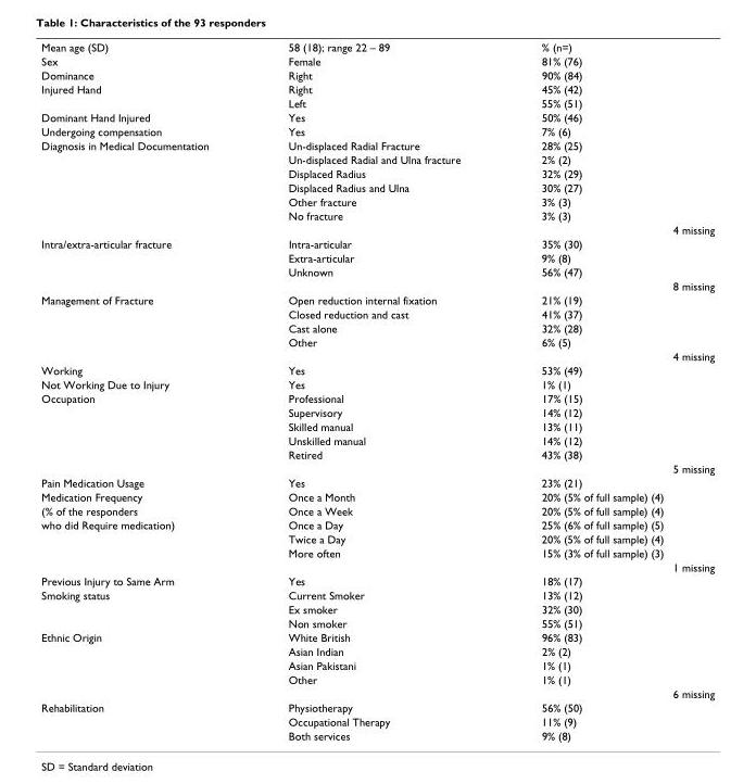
<table><tbody><tr><td>Mean age (SD)</td><td>58 (18); range 22 – 89</td><td>% (n=)</td></tr><tr><td>Sex</td><td>Female</td><td>81% (76)</td></tr><tr><td>Dominance</td><td>Right</td><td>90% (84)</td></tr><tr><td rowspan="2">Injured Hand</td><td>Right</td><td>45% (42)</td></tr><tr><td>Left</td><td>55% (51)</td></tr><tr><td>Dominant Hand Injured</td><td>Yes</td><td>50% (46)</td></tr><tr><td>Undergoing compensation</td><td>Yes</td><td>7% (6)</td></tr><tr><td rowspan="7">Diagnosis in Medical Documentation</td><td>Un-displaced Radial Fracture</td><td>28% (25)</td></tr><tr><td>Un-displaced Radial and Ulna fracture</td><td>2% (2)</td></tr><tr><td>Displaced Radius</td><td>32% (29)</td></tr><tr><td>Displaced Radius and Ulna</td><td>30% (27)</td></tr><tr><td>Other fracture</td><td>3% (3)</td></tr><tr><td>No fracture</td><td>3% (3)</td></tr><tr><td></td><td>4 missing</td></tr><tr><td rowspan="4">Intra/extra-articular fracture</td><td>Intra-articular</td><td>35% (30)</td></tr><tr><td>Extra-articular</td><td>9% (8)</td></tr><tr><td>Unknown</td><td>56% (47)</td></tr><tr><td></td><td>8 missing</td></tr><tr><td rowspan="5">Management of Fracture</td><td>Open reduction internal fixation</td><td>21% (19)</td></tr><tr><td>Closed reduction and cast</td><td>41% (37)</td></tr><tr><td>Cast alone</td><td>32% (28)</td></tr><tr><td>Other</td><td>6% (5)</td></tr><tr><td></td><td>4 missing</td></tr><tr><td>Working</td><td>Yes</td><td>53% (49)</td></tr><tr><td>Not Working Due to Injury</td><td>Yes</td><td>1% (1)</td></tr><tr><td rowspan="6">Occupation</td><td>Professional</td><td>17% (15)</td></tr><tr><td>Supervisory</td><td>14% (12)</td></tr><tr><td>Skilled manual</td><td>13% (11)</td></tr><tr><td>Unskilled manual</td><td>14% (12)</td></tr><tr><td>Retired</td><td>43% (38)</td></tr><tr><td></td><td>5 missing</td></tr><tr><td>Pain Medication Usage</td><td>Yes</td><td>23% (21)</td></tr><tr><td>Medication Frequency</td><td>Once a Month</td><td>20% (5% of full sample) (4)</td></tr><tr><td>(% of the responders</td><td>Once a Week</td><td>20% (5% of full sample) (4)</td></tr><tr><td rowspan="4">who did Require medication)</td><td>Once a Day</td><td>25% (6% of full sample) (5)</td></tr><tr><td>Twice a Day</td><td>20% (5% of full sample) (4)</td></tr><tr><td>More often</td><td>15% (3% of full sample) (3)</td></tr><tr><td></td><td>1 missing</td></tr><tr><td>Previous Injury to Same Arm</td><td>Yes</td><td>18% (17)</td></tr><tr><td rowspan="3">Smoking status</td><td>Current Smoker</td><td>13% (12)</td></tr><tr><td>Ex smoker</td><td>32% (30)</td></tr><tr><td>Non smoker</td><td>55% (51)</td></tr><tr><td rowspan="5">Ethnic Origin</td><td>White British</td><td>96% (83)</td></tr><tr><td>Asian Indian</td><td>2% (2)</td></tr><tr><td>Asian Pakistani</td><td>1% (1)</td></tr><tr><td>Other</td><td>1% (1)</td></tr><tr><td></td><td>6 missing</td></tr><tr><td rowspan="3">Rehabilitation</td><td>Physiotherapy</td><td>56% (50)</td></tr><tr><td>Occupational Therapy</td><td>11% (9)</td></tr><tr><td>Both services</td><td>9% (8)</td></tr></tbody></table>